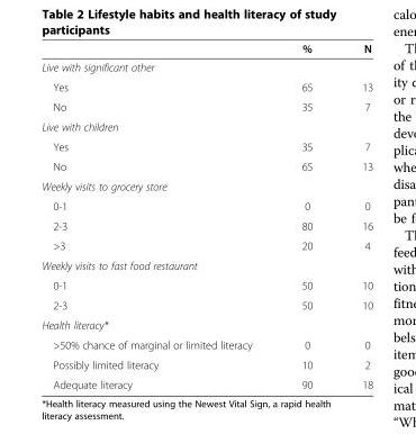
<table><thead><tr><td></td><td>%</td><td>N</td></tr></thead><tbody><tr><td colspan="3">Live with significant other</td></tr><tr><td>Yes</td><td>65</td><td>13</td></tr><tr><td>No</td><td>35</td><td>7</td></tr><tr><td colspan="3">Live with children</td></tr><tr><td>Yes</td><td>35</td><td>7</td></tr><tr><td>No</td><td>65</td><td>13</td></tr><tr><td colspan="3">Weekly visits to grocery store</td></tr><tr><td>0-1</td><td>0</td><td>0</td></tr><tr><td>2-3</td><td>80</td><td>16</td></tr><tr><td>&gt;3</td><td>20</td><td>4</td></tr><tr><td colspan="3">Weekly visits to fast food restaurant</td></tr><tr><td>0-1</td><td>50</td><td>10</td></tr><tr><td>2-3</td><td>50</td><td>10</td></tr><tr><td colspan="3">Health literacy*</td></tr><tr><td>&gt;50% chance of marginal or limited literacy</td><td>0</td><td>0</td></tr><tr><td>Possibly limited literacy</td><td>10</td><td>2</td></tr><tr><td>Adequate literacy</td><td>90</td><td>18</td></tr></tbody></table>